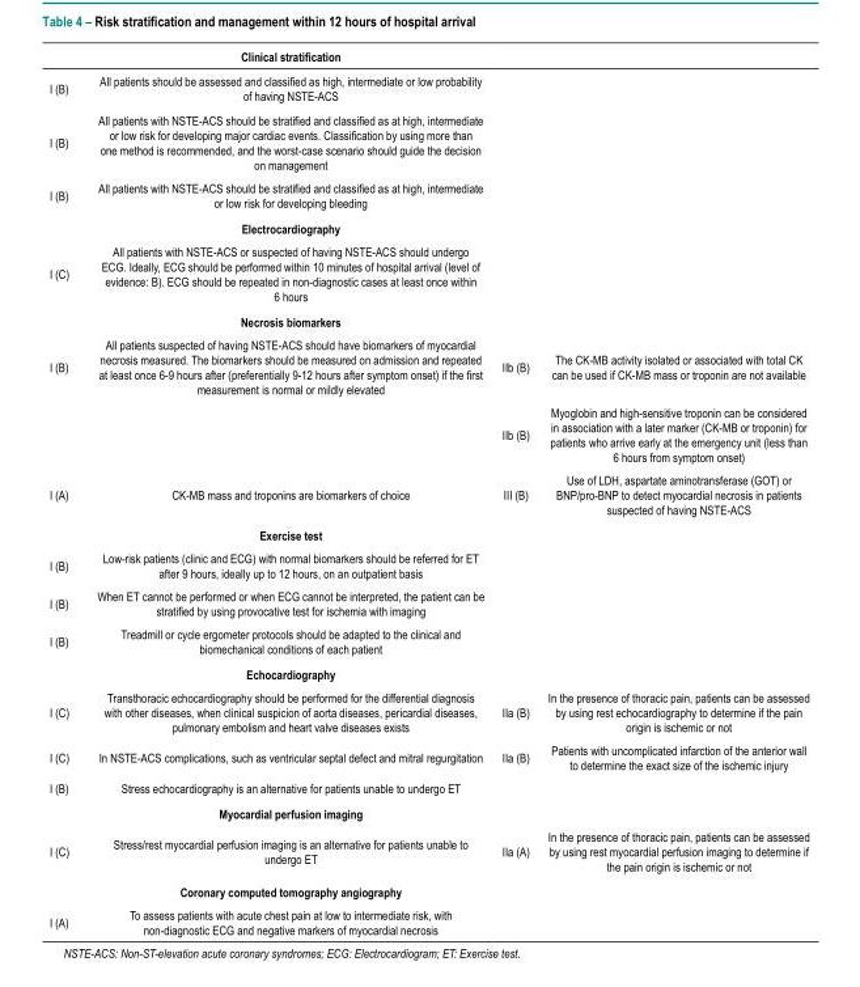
<table><thead><tr><td></td><td>Clinical stratification</td><td></td><td></td></tr></thead><tbody><tr><td>I (B)</td><td>All patients should be assessed and classified as high, intermediate or low probability of having NSTE-ACS</td><td></td><td></td></tr><tr><td>I (B)</td><td>All patients with NSTE-ACS should be stratified and classified as at high, intermediate or low risk for developing major cardiac events. Classification by using more than one method is recommended, and the worst-case scenario should guide the decision on management</td><td></td><td></td></tr><tr><td rowspan="2">I (B)</td><td>All patients with NSTE-ACS should be stratified and classified as at high, intermediate or low risk for developing bleeding</td><td></td><td></td></tr><tr><td>Electrocardiography</td><td></td><td></td></tr><tr><td rowspan="2">I (C)</td><td>All patients with NSTE-ACS or suspected of having NSTE-ACS should undergo ECG. Ideally, ECG should be performed within 10 minutes of hospital arrival (level of evidence: B). ECG should be repeated in non-diagnostic cases at least once within 6 hours</td><td></td><td></td></tr><tr><td>Necrosis biomarkers</td><td></td><td></td></tr><tr><td>I (B)</td><td>All patients suspected of having NSTE-ACS should have biomarkers of myocardial necrosis measured. The biomarkers should be measured on admission and repeated at least once 6-9 hours after (preferentially 9-12 hours after symptom onset) if the first measurement is normal or mildly elevated</td><td>IIb (B)</td><td>The CK-MB activity isolated or associated with total CK can be used if CK-MB mass or troponin are not available</td></tr><tr><td rowspan="3">I (A)</td><td></td><td>IIb (B)</td><td>Myoglobin and high-sensitive troponin can be considered in association with a later marker (CK-MB or troponin) for patients who arrive early at the emergency unit (less than 6 hours from symptom onset)</td></tr><tr><td>CK-MB mass and troponins are biomarkers of choice</td><td>III (B)</td><td>Use of LDH, aspartate aminotransferase (GOT) or BNP/pro-BNP to detect myocardial necrosis in patients suspected of having NSTE-ACS</td></tr><tr><td>Exercise test</td><td></td><td></td></tr><tr><td>I (B)</td><td>Low-risk patients (clinic and ECG) with normal biomarkers should be referred for ET after 9 hours, ideally up to 12 hours, on an outpatient basis</td><td></td><td></td></tr><tr><td>I (B)</td><td>When ET cannot be performed or when ECG cannot be interpreted, the patient can be stratified by using provocative test for ischemia with imaging</td><td></td><td></td></tr><tr><td rowspan="2">I (B)</td><td>Treadmill or cycle ergometer protocols should be adapted to the clinical and biomechanical conditions of each patient</td><td></td><td></td></tr><tr><td>Echocardiography</td><td></td><td></td></tr><tr><td>I (C)</td><td>Transthoracic echocardiography should be performed for the differential diagnosis with other diseases, when clinical suspicion of aorta diseases, pericardial diseases, pulmonary embolism and heart valve diseases exists</td><td>IIa (B)</td><td>In the presence of thoracic pain, patients can be assessed by using rest echocardiography to determine if the pain origin is ischemic or not</td></tr><tr><td>I (C)</td><td>In NSTE-ACS complications, such as ventricular septal defect and mitral regurgitation</td><td>IIa (B)</td><td>Patients with uncomplicated infarction of the anterior wall to determine the exact size of the ischemic injury</td></tr><tr><td rowspan="2">I (B)</td><td>Stress echocardiography is an alternative for patients unable to undergo ET</td><td></td><td></td></tr><tr><td>Myocardial perfusion imaging</td><td></td><td></td></tr><tr><td rowspan="2">I (C)</td><td>Stress/rest myocardial perfusion imaging is an alternative for patients unable to undergo ET</td><td>IIa (A)</td><td>In the presence of thoracic pain, patients can be assessed by using rest myocardial perfusion imaging to determine if the pain origin is ischemic or not</td></tr><tr><td>Coronary computed tomography angiography</td><td></td><td></td></tr><tr><td>I (A)</td><td>To assess patients with acute chest pain at low to intermediate risk, with non-diagnostic ECG and negative markers of myocardial necrosis</td><td></td><td></td></tr></tbody></table>